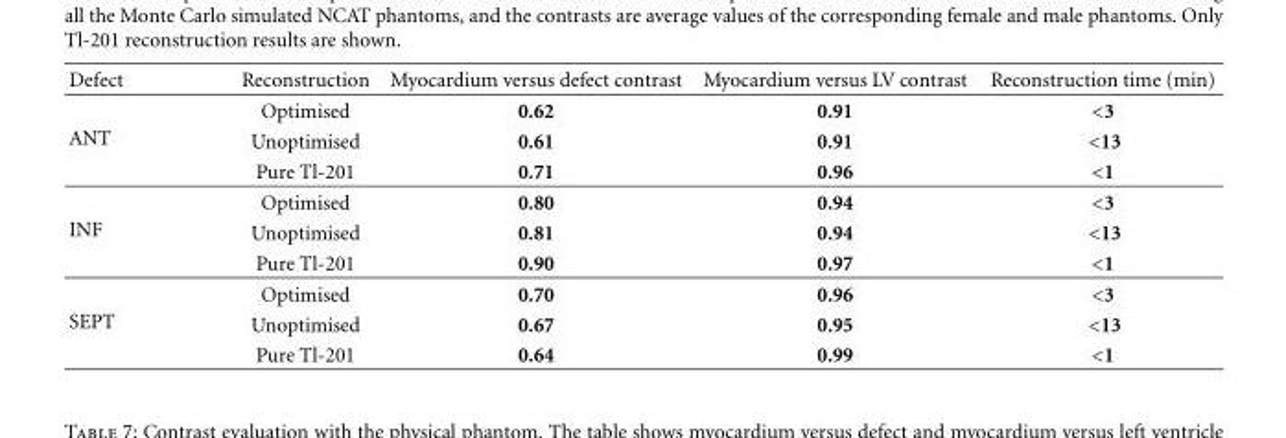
<table><thead><tr><td>Defect</td><td>Reconstruction</td><td>Myocardium versus defect contrast</td><td>Myocardium versus LV contrast</td><td>Reconstruction time (min)</td></tr></thead><tbody><tr><td rowspan="3">ANT</td><td>Optimised</td><td>0.62</td><td>0.91</td><td>&lt;3</td></tr><tr><td>Unoptimised</td><td>0.61</td><td>0.91</td><td>&lt;13</td></tr><tr><td>Pure Tl-201</td><td>0.71</td><td>0.96</td><td>&lt;1</td></tr><tr><td rowspan="3">INF</td><td>Optimised</td><td>0.80</td><td>0.94</td><td>&lt;3</td></tr><tr><td>Unoptimised</td><td>0.81</td><td>0.94</td><td>&lt;13</td></tr><tr><td>Pure Tl-201</td><td>0.90</td><td>0.97</td><td>&lt;1</td></tr><tr><td rowspan="3">SEPT</td><td>Optimised</td><td>0.70</td><td>0.96</td><td>&lt;3</td></tr><tr><td>Unoptimised</td><td>0.67</td><td>0.95</td><td>&lt;13</td></tr><tr><td>Pure Tl-201</td><td>0.64</td><td>0.99</td><td>&lt;1</td></tr></tbody></table>